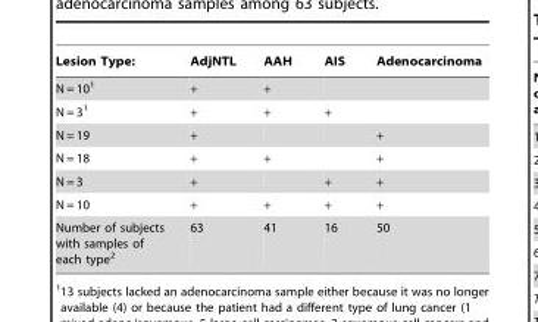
<table><thead><tr><td>Lesion Type:</td><td>AdjNTL</td><td>AAH</td><td>AIS</td><td>Adenocarcinoma</td></tr></thead><tbody><tr><td>N = 10<sup>1</sup></td><td>+</td><td>+</td><td></td><td></td></tr><tr><td>N = 3<sup>1</sup></td><td>+</td><td>+</td><td>+</td><td></td></tr><tr><td>N = 19</td><td>+</td><td></td><td></td><td>+</td></tr><tr><td>N = 18</td><td>+</td><td>+</td><td></td><td>+</td></tr><tr><td>N = 3</td><td>+</td><td></td><td>+</td><td>+</td></tr><tr><td>N = 10</td><td>+</td><td>+</td><td>+</td><td>+</td></tr><tr><td>Number of subjects with samples of each type<sup>2</sup></td><td>63</td><td>41</td><td>16</td><td>50</td></tr></tbody></table>